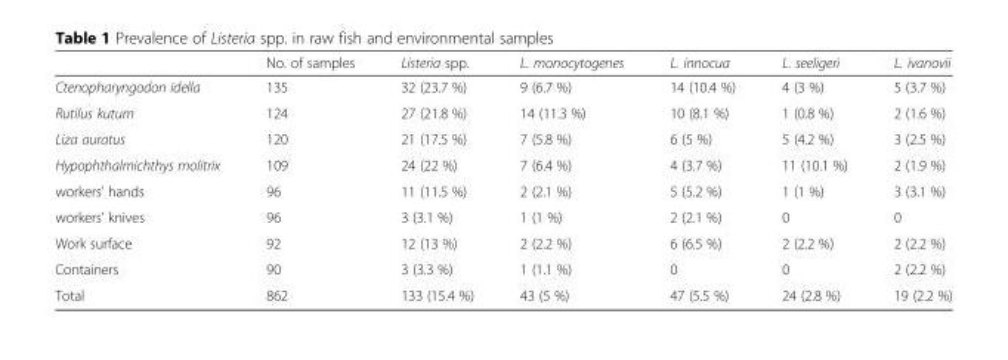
<table><thead><tr><td></td><td>No. of samples</td><td>Listeria spp.</td><td>L. monocytogenes</td><td>L. innocua</td><td>L. seeligeri</td><td>L. ivanovii</td></tr></thead><tbody><tr><td>Ctenopharyngodon idella</td><td>135</td><td>32 (23.7 %)</td><td>9 (6.7 %)</td><td>14 (10.4 %)</td><td>4 (3 %)</td><td>5 (3.7 %)</td></tr><tr><td>Rutilus kutum</td><td>124</td><td>27 (21.8 %)</td><td>14 (11.3 %)</td><td>10 (8.1 %)</td><td>1 (0.8 %)</td><td>2 (1.6 %)</td></tr><tr><td>Liza auratus</td><td>120</td><td>21 (17.5 %)</td><td>7 (5.8 %)</td><td>6 (5 %)</td><td>5 (4.2 %)</td><td>3 (2.5 %)</td></tr><tr><td>Hypophthalmichthys molitrix</td><td>109</td><td>24 (22 %)</td><td>7 (6.4 %)</td><td>4 (3.7 %)</td><td>11 (10.1 %)</td><td>2 (1.9 %)</td></tr><tr><td>workers’ hands</td><td>96</td><td>11 (11.5 %)</td><td>2 (2.1 %)</td><td>5 (5.2 %)</td><td>1 (1 %)</td><td>3 (3.1 %)</td></tr><tr><td>workers’ knives</td><td>96</td><td>3 (3.1 %)</td><td>1 (1 %)</td><td>2 (2.1 %)</td><td>0</td><td>0</td></tr><tr><td>Work surface</td><td>92</td><td>12 (13 %)</td><td>2 (2.2 %)</td><td>6 (6.5 %)</td><td>2 (2.2 %)</td><td>2 (2.2 %)</td></tr><tr><td>Containers</td><td>90</td><td>3 (3.3 %)</td><td>1 (1.1 %)</td><td>0</td><td>0</td><td>2 (2.2 %)</td></tr><tr><td>Total</td><td>862</td><td>133 (15.4 %)</td><td>43 (5 %)</td><td>47 (5.5 %)</td><td>24 (2.8 %)</td><td>19 (2.2 %)</td></tr></tbody></table>